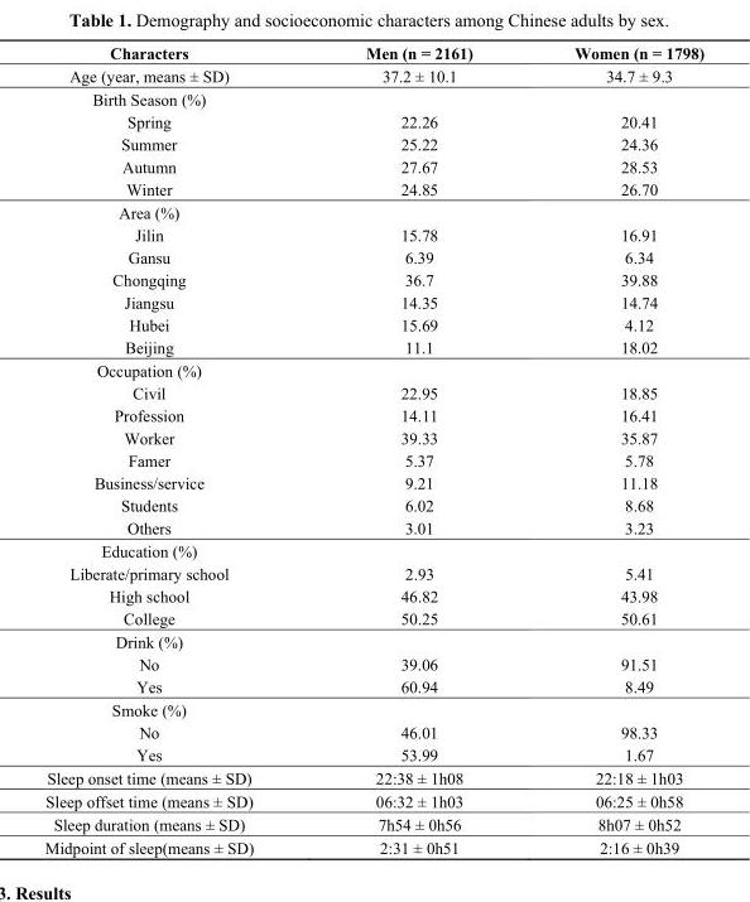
<table><thead><tr><td>Characters</td><td>Men (n = 2161)</td><td>Women (n = 1798)</td></tr></thead><tbody><tr><td>Age (year, means ± SD)</td><td>37.2 ± 10.1</td><td>34.7 ± 9.3</td></tr><tr><td colspan="3">Birth Season (%)</td></tr><tr><td>Spring</td><td>22.26</td><td>20.41</td></tr><tr><td>Summer</td><td>25.22</td><td>24.36</td></tr><tr><td>Autumn</td><td>27.67</td><td>28.53</td></tr><tr><td>Winter</td><td>24.85</td><td>26.70</td></tr><tr><td colspan="3">Area (%)</td></tr><tr><td>Jilin</td><td>15.78</td><td>16.91</td></tr><tr><td>Gansu</td><td>6.39</td><td>6.34</td></tr><tr><td>Chongqing</td><td>36.7</td><td>39.88</td></tr><tr><td>Jiangsu</td><td>14.35</td><td>14.74</td></tr><tr><td>Hubei</td><td>15.69</td><td>4.12</td></tr><tr><td>Beijing</td><td>11.1</td><td>18.02</td></tr><tr><td colspan="3">Occupation (%)</td></tr><tr><td>Civil</td><td>22.95</td><td>18.85</td></tr><tr><td>Profession</td><td>14.11</td><td>16.41</td></tr><tr><td>Worker</td><td>39.33</td><td>35.87</td></tr><tr><td>Famer</td><td>5.37</td><td>5.78</td></tr><tr><td>Business/service</td><td>9.21</td><td>11.18</td></tr><tr><td>Students</td><td>6.02</td><td>8.68</td></tr><tr><td>Others</td><td>3.01</td><td>3.23</td></tr><tr><td colspan="3">Education (%)</td></tr><tr><td>Liberate/primary school</td><td>2.93</td><td>5.41</td></tr><tr><td>High school</td><td>46.82</td><td>43.98</td></tr><tr><td>College</td><td>50.25</td><td>50.61</td></tr><tr><td colspan="3">Drink (%)</td></tr><tr><td>No</td><td>39.06</td><td>91.51</td></tr><tr><td>Yes</td><td>60.94</td><td>8.49</td></tr><tr><td colspan="3">Smoke (%)</td></tr><tr><td>No</td><td>46.01</td><td>98.33</td></tr><tr><td>Yes</td><td>53.99</td><td>1.67</td></tr><tr><td>Sleep onset time (means ± SD)</td><td>22:38 ± 1h08</td><td>22:18 ± 1h03</td></tr><tr><td>Sleep offset time (means ± SD)</td><td>06:32 ± 1h03</td><td>06:25 ± 0h58</td></tr><tr><td>Sleep duration (means ± SD)</td><td>7h54 ± 0h56</td><td>8h07 ± 0h52</td></tr><tr><td>Midpoint of sleep(means ± SD)</td><td>2:31 ± 0h51</td><td>2:16 ± 0h39</td></tr></tbody></table>